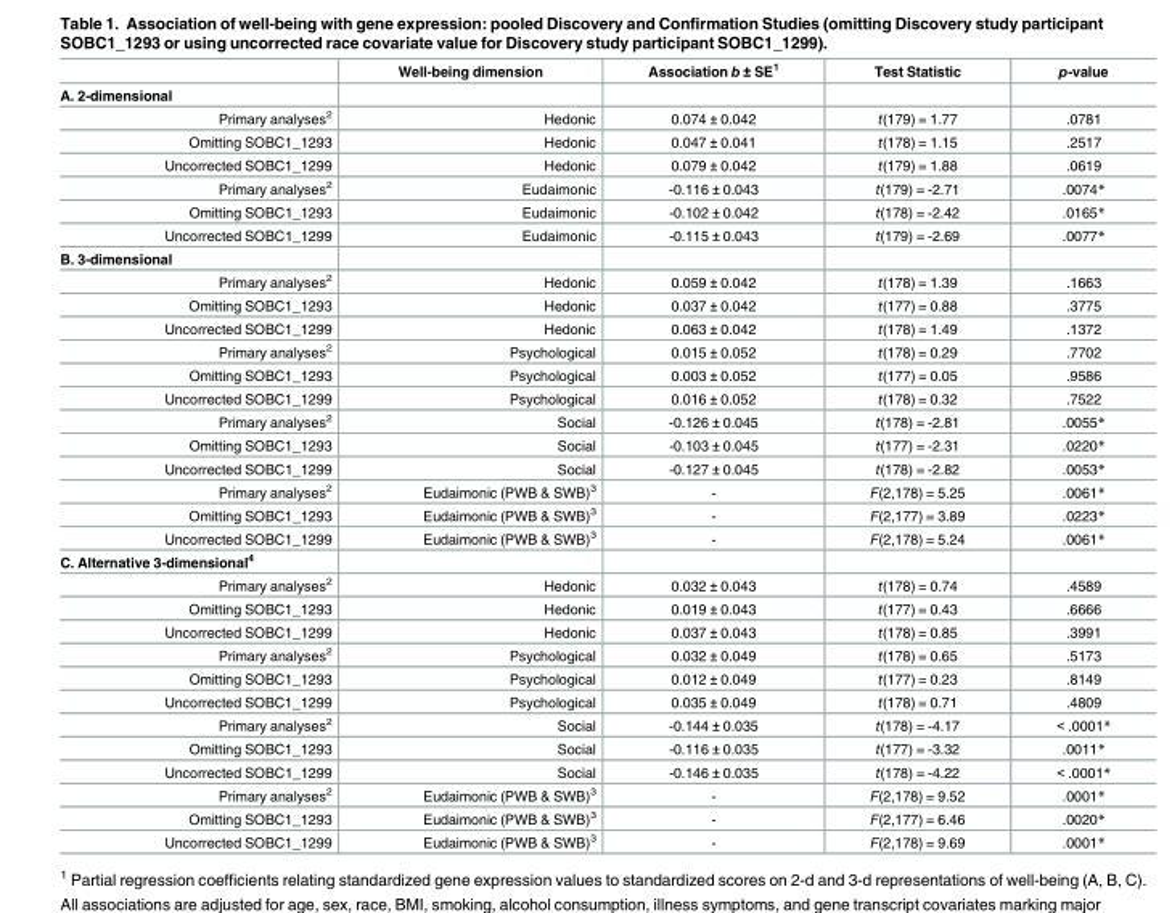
<table><thead><tr><td></td><td>Well-being dimension</td><td>Association b ± SE<sup>1</sup></td><td>Test Statistic</td><td>p-value</td></tr></thead><tbody><tr><td colspan="5">A. 2-dimensional</td></tr><tr><td>Primary analyses<sup>2</sup></td><td>Hedonic</td><td>0.074 ± 0.042</td><td>t(179) = 1.77</td><td>.0781</td></tr><tr><td>Omitting SOBC1_1293</td><td>Hedonic</td><td>0.047 ± 0.041</td><td>t(178) = 1.15</td><td>.2517</td></tr><tr><td>Uncorrected SOBC1_1299</td><td>Hedonic</td><td>0.079 ± 0.042</td><td>t(179) = 1.88</td><td>.0619</td></tr><tr><td>Primary analyses<sup>2</sup></td><td>Eudaimonic</td><td>-0.116 ± 0.043</td><td>t(179) = -2.71</td><td>.0074*</td></tr><tr><td>Omitting SOBC1_1293</td><td>Eudaimonic</td><td>-0.102 ± 0.042</td><td>t(178) = -2.42</td><td>.0165*</td></tr><tr><td>Uncorrected SOBC1_1299</td><td>Eudaimonic</td><td>-0.115 ± 0.043</td><td>t(179) = -2.69</td><td>.0077*</td></tr><tr><td colspan="5">B. 3-dimensional</td></tr><tr><td>Primary analyses<sup>2</sup></td><td>Hedonic</td><td>0.059 ± 0.042</td><td>t(178) = 1.39</td><td>.1663</td></tr><tr><td>Omitting SOBC1_1293</td><td>Hedonic</td><td>0.037 ± 0.042</td><td>t(177) = 0.88</td><td>.3775</td></tr><tr><td>Uncorrected SOBC1_1299</td><td>Hedonic</td><td>0.063 ± 0.042</td><td>t(178) = 1.49</td><td>.1372</td></tr><tr><td>Primary analyses<sup>2</sup></td><td>Psychological</td><td>0.015 ± 0.052</td><td>t(178) = 0.29</td><td>.7702</td></tr><tr><td>Omitting SOBC1_1293</td><td>Psychological</td><td>0.003 ± 0.052</td><td>t(177) = 0.05</td><td>.9586</td></tr><tr><td>Uncorrected SOBC1_1299</td><td>Psychological</td><td>0.016 ± 0.052</td><td>t(178) = 0.32</td><td>.7522</td></tr><tr><td>Primary analyses<sup>2</sup></td><td>Social</td><td>-0.126 ± 0.045</td><td>t(178) = -2.81</td><td>.0055*</td></tr><tr><td>Omitting SOBC1_1293</td><td>Social</td><td>-0.103 ± 0.045</td><td>t(177) = -2.31</td><td>.0220*</td></tr><tr><td>Uncorrected SOBC1_1299</td><td>Social</td><td>-0.127 ± 0.045</td><td>t(178) = -2.82</td><td>.0053*</td></tr><tr><td>Primary analyses<sup>2</sup></td><td>Eudaimonic (PWB &amp; SWB)<sup>3</sup></td><td>-</td><td>F(2,178) = 5.25</td><td>.0061*</td></tr><tr><td>Omitting SOBC1_1293</td><td>Eudaimonic (PWB &amp; SWB)<sup>3</sup></td><td>-</td><td>F(2,177) = 3.89</td><td>.0223*</td></tr><tr><td>Uncorrected SOBC1_1299</td><td>Eudaimonic (PWB &amp; SWB)<sup>3</sup></td><td>-</td><td>F(2,178) = 5.24</td><td>.0061*</td></tr><tr><td colspan="5">C. Alternative 3-dimensional<sup>4</sup></td></tr><tr><td>Primary analyses<sup>2</sup></td><td>Hedonic</td><td>0.032 ± 0.043</td><td>t(178) = 0.74</td><td>.4589</td></tr><tr><td>Omitting SOBC1_1293</td><td>Hedonic</td><td>0.019 ± 0.043</td><td>t(177) = 0.43</td><td>.6666</td></tr><tr><td>Uncorrected SOBC1_1299</td><td>Hedonic</td><td>0.037 ± 0.043</td><td>t(178) = 0.85</td><td>.3991</td></tr><tr><td>Primary analyses<sup>2</sup></td><td>Psychological</td><td>0.032 ± 0.049</td><td>t(178) = 0.65</td><td>.5173</td></tr><tr><td>Omitting SOBC1_1293</td><td>Psychological</td><td>0.012 ± 0.049</td><td>t(177) = 0.23</td><td>.8149</td></tr><tr><td>Uncorrected SOBC1_1299</td><td>Psychological</td><td>0.035 ± 0.049</td><td>t(178) = 0.71</td><td>.4809</td></tr><tr><td>Primary analyses<sup>2</sup></td><td>Social</td><td>-0.144 ± 0.035</td><td>t(178) = -4.17</td><td>&lt; .0001*</td></tr><tr><td>Omitting SOBC1_1293</td><td>Social</td><td>-0.116 ± 0.035</td><td>t(177) = -3.32</td><td>.0011*</td></tr><tr><td>Uncorrected SOBC1_1299</td><td>Social</td><td>-0.146 ± 0.035</td><td>t(178) = -4.22</td><td>&lt; .0001*</td></tr><tr><td>Primary analyses<sup>2</sup></td><td>Eudaimonic (PWB &amp; SWB)<sup>3</sup></td><td>-</td><td>F(2,178) = 9.52</td><td>.0001*</td></tr><tr><td>Omitting SOBC1_1293</td><td>Eudaimonic (PWB &amp; SWB)<sup>3</sup></td><td>-</td><td>F(2,177) = 6.46</td><td>.0020*</td></tr><tr><td>Uncorrected SOBC1_1299</td><td>Eudaimonic (PWB &amp; SWB)<sup>3</sup></td><td>-</td><td>F(2,178) = 9.69</td><td>.0001*</td></tr></tbody></table>